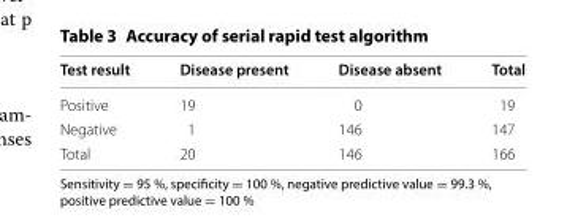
<table><thead><tr><td>Test result</td><td>Disease present</td><td>Disease absent</td><td>Total</td></tr></thead><tbody><tr><td>Positive</td><td>19</td><td>0</td><td>19</td></tr><tr><td>Negative</td><td>1</td><td>146</td><td>147</td></tr><tr><td>Total</td><td>20</td><td>146</td><td>166</td></tr></tbody></table>